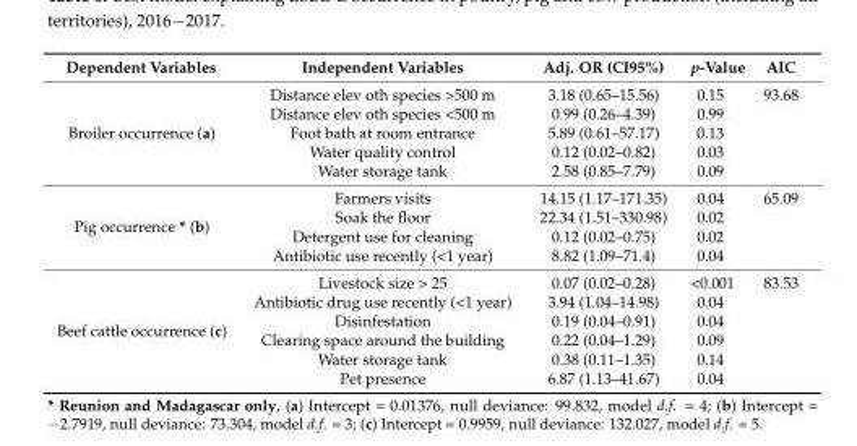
<table><thead><tr><td>Dependent Variables</td><td>Independent Variables</td><td>Adj. OR (CI95%)</td><td>p-Value</td><td>AIC</td></tr></thead><tbody><tr><td rowspan="5">Broiler occurrence (a)</td><td>Distance elev oth species &gt;500 m</td><td>3.18 (0.65–15.56)</td><td>0.15</td><td>93.68</td></tr><tr><td>Distance elev oth species &lt;500 m</td><td>0.99 (0.26–4.39)</td><td>0.99</td><td></td></tr><tr><td>Foot bath at room entrance</td><td>5.89 (0.61–57.17)</td><td>0.13</td><td></td></tr><tr><td>Water quality control</td><td>0.12 (0.02–0.82)</td><td>0.03</td><td></td></tr><tr><td>Water storage tank</td><td>2.58 (0.85–7.79)</td><td>0.09</td><td></td></tr><tr><td rowspan="4">Pig occurrence * (b)</td><td>Farmers visits</td><td>14.15 (1.17–171.35)</td><td>0.04</td><td>65.09</td></tr><tr><td>Soak the floor</td><td>22.34 (1.51–330.98)</td><td>0.02</td><td></td></tr><tr><td>Detergent use for cleaning</td><td>0.12 (0.02–0.75)</td><td>0.02</td><td></td></tr><tr><td>Antibiotic use recently (&lt;1 year)</td><td>8.82 (1.09–71.4)</td><td>0.04</td><td></td></tr><tr><td rowspan="6">Beef cattle occurrence (c)</td><td>Livestock size &gt; 25</td><td>0.07 (0.02–0.28)</td><td>&lt;0.001</td><td>83.53</td></tr><tr><td>Antibiotic drug use recently (&lt;1 year)</td><td>3.94 (1.04–14.98)</td><td>0.04</td><td></td></tr><tr><td>Disinfestation</td><td>0.19 (0.04–0.91)</td><td>0.04</td><td></td></tr><tr><td>Clearing space around the building</td><td>0.22 (0.04–1.29)</td><td>0.09</td><td></td></tr><tr><td>Water storage tank</td><td>0.38 (0.11–1.35)</td><td>0.14</td><td></td></tr><tr><td>Pet presence</td><td>6.87 (1.13–41.67)</td><td>0.04</td><td></td></tr></tbody></table>